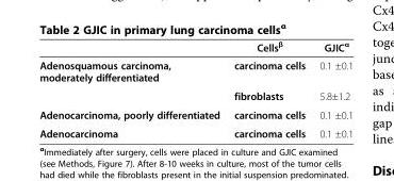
<table><thead><tr><td></td><td>Cells<sup>β</sup></td><td>GJIC<sup>α</sup></td></tr></thead><tbody><tr><td rowspan="2">Adenosquamous carcinoma, moderately differentiated</td><td>carcinoma cells</td><td>0.1 ±0.1</td></tr><tr><td>fibroblasts</td><td>5.8±1.2</td></tr><tr><td>Adenocarcinoma, poorly differentiated</td><td>carcinoma cells</td><td>0.1 ±0.1</td></tr><tr><td>Adenocarcinoma</td><td>carcinoma cells</td><td>0.1 ±0.1</td></tr></tbody></table>